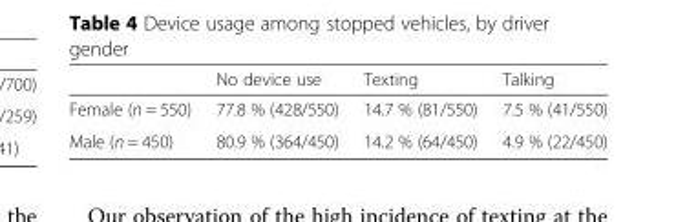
<table><thead><tr><td></td><td>No device use</td><td>Texting</td><td>Talking</td></tr></thead><tbody><tr><td>Female (n = 550)</td><td>77.8 % (428/550)</td><td>14.7 % (81/550)</td><td>7.5 % (41/550)</td></tr><tr><td>Male (n = 450)</td><td>80.9 % (364/450)</td><td>14.2 % (64/450)</td><td>4.9 % (22/450)</td></tr></tbody></table>